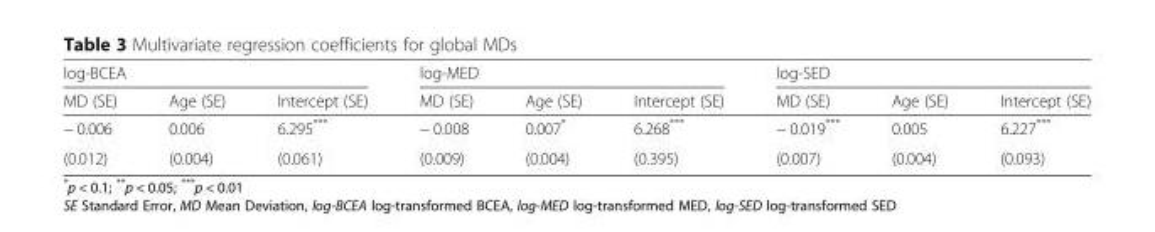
<table><thead><tr><td colspan="3">log-BCEA</td><td colspan="3">log-MED</td><td colspan="3">log-SED</td></tr><tr><td>MD (SE)</td><td>Age (SE)</td><td>Intercept (SE)</td><td>MD (SE)</td><td>Age (SE)</td><td>Intercept (SE)</td><td>MD (SE)</td><td>Age (SE)</td><td>Intercept (SE)</td></tr></thead><tbody><tr><td>− 0.006</td><td>0.006</td><td>6.295***</td><td>− 0.008</td><td>0.007*</td><td>6.268***</td><td>− 0.019***</td><td>0.005</td><td>6.227***</td></tr><tr><td>(0.012)</td><td>(0.004)</td><td>(0.061)</td><td>(0.009)</td><td>(0.004)</td><td>(0.395)</td><td>(0.007)</td><td>(0.004)</td><td>(0.093)</td></tr></tbody></table>